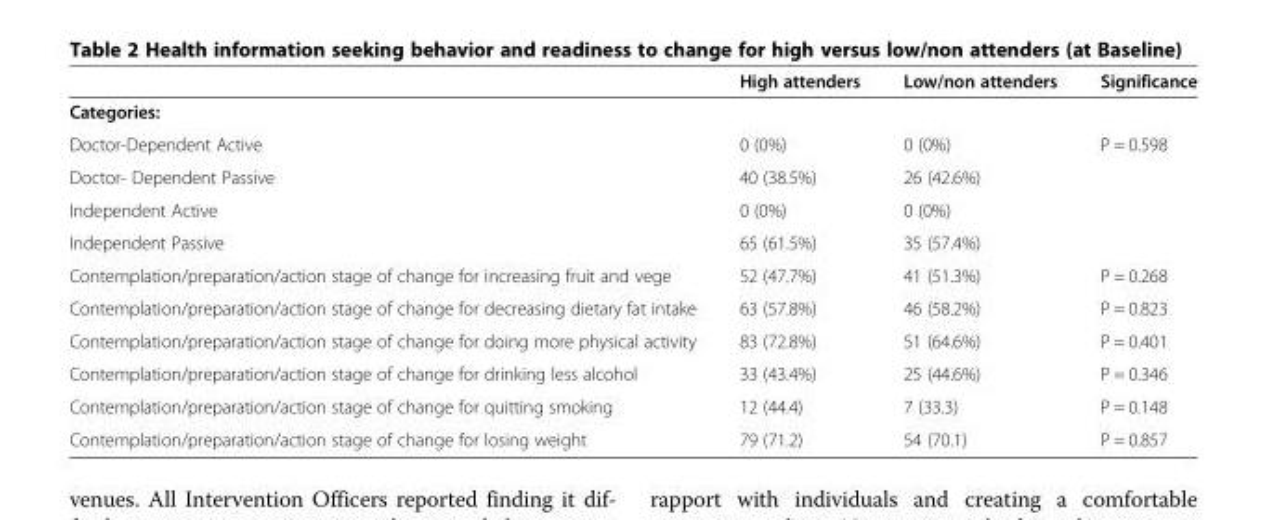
<table><thead><tr><td></td><td>High attenders</td><td>Low/non attenders</td><td>Significance</td></tr></thead><tbody><tr><td colspan="4">Categories:</td></tr><tr><td>Doctor-Dependent Active</td><td>0 (0%)</td><td>0 (0%)</td><td rowspan="4">P = 0.598</td></tr><tr><td>Doctor- Dependent Passive</td><td>40 (38.5%)</td><td>26 (42.6%)</td></tr><tr><td>Independent Active</td><td>0 (0%)</td><td>0 (0%)</td></tr><tr><td>Independent Passive</td><td>65 (61.5%)</td><td>35 (57.4%)</td></tr><tr><td>Contemplation/preparation/action stage of change for increasing fruit and vege</td><td>52 (47.7%)</td><td>41 (51.3%)</td><td>P = 0.268</td></tr><tr><td>Contemplation/preparation/action stage of change for decreasing dietary fat intake</td><td>63 (57.8%)</td><td>46 (58.2%)</td><td>P = 0.823</td></tr><tr><td>Contemplation/preparation/action stage of change for doing more physical activity</td><td>83 (72.8%)</td><td>51 (64.6%)</td><td>P = 0.401</td></tr><tr><td>Contemplation/preparation/action stage of change for drinking less alcohol</td><td>33 (43.4%)</td><td>25 (44.6%)</td><td>P = 0.346</td></tr><tr><td>Contemplation/preparation/action stage of change for quitting smoking</td><td>12 (44.4)</td><td>7 (33.3)</td><td>P = 0.148</td></tr><tr><td>Contemplation/preparation/action stage of change for losing weight</td><td>79 (71.2)</td><td>54 (70.1)</td><td>P = 0.857</td></tr></tbody></table>